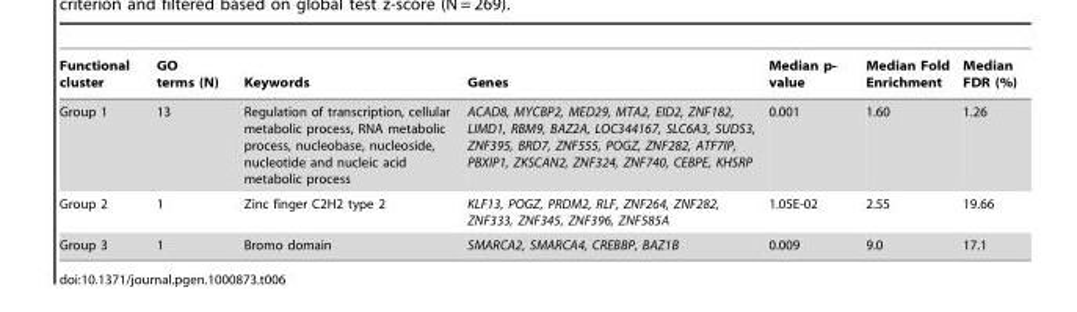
<table><thead><tr><td>Functional cluster</td><td>GO terms (N)</td><td>Keywords</td><td>Genes</td><td>Median p- value</td><td>Median Fold Enrichment</td><td>Median FDR (%)</td></tr></thead><tbody><tr><td>Group 1</td><td>13</td><td>Regulation of transcription, cellular metabolic process, RNA metabolic process, nucleobase, nucleoside, nucleotide and nucleic acid metabolic process</td><td>ACAD8, MYCBP2, MED29, MTA2, EID2, ZNF182, LIMD1, RBM9, BAZ2A, LOC344167, SLC6A3, SUDS3, ZNF395, BRD7, ZNF555, POGZ, ZNF282, ATF7IP, PBXIP1, ZKSCAN2, ZNF324, ZNF740, CEBPE, KHSRP</td><td>0.001</td><td>1.60</td><td>1.26</td></tr><tr><td>Group 2</td><td>1</td><td>Zinc finger C2H2 type 2</td><td>KLF13, POGZ, PRDM2, RLF, ZNF264, ZNF282, ZNF333, ZNF345, ZNF396, ZNF585A</td><td>1.05E-02</td><td>2.55</td><td>19.66</td></tr><tr><td>Group 3</td><td>1</td><td>Bromo domain</td><td>SMARCA2, SMARCA4, CREBBP, BAZ1B</td><td>0.009</td><td>9.0</td><td>17.1</td></tr></tbody></table>